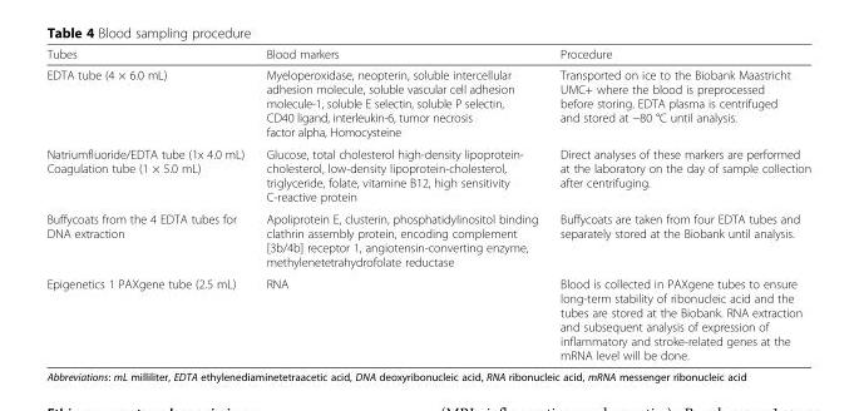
<table><thead><tr><td>Tubes</td><td>Blood markers</td><td>Procedure</td></tr></thead><tbody><tr><td>EDTA tube (4 × 6.0 mL)</td><td>Myeloperoxidase, neopterin, soluble intercellular adhesion molecule, soluble vascular cell adhesion molecule-1, soluble E selectin, soluble P selectin, CD40 ligand, interleukin-6, tumor necrosis factor alpha, Homocysteine</td><td>Transported on ice to the Biobank Maastricht UMC+ where the blood is preprocessed before storing. EDTA plasma is centrifuged and stored at −80 °C until analysis.</td></tr><tr><td>Natriumfluoride/EDTA tube (1x 4.0 mL) Coagulation tube (1 × 5.0 mL)</td><td>Glucose, total cholesterol high-density lipoprotein- cholesterol, low-density lipoprotein-cholesterol, triglyceride, folate, vitamine B12, high sensitivity C-reactive protein</td><td>Direct analyses of these markers are performed at the laboratory on the day of sample collection after centrifuging.</td></tr><tr><td>Buffycoats from the 4 EDTA tubes for DNA extraction</td><td>Apoliprotein E, clusterin, phosphatidylinositol binding clathrin assembly protein, encoding complement [3b/4b] receptor 1, angiotensin-converting enzyme, methylenetetrahydrofolate reductase</td><td>Buffycoats are taken from four EDTA tubes and separately stored at the Biobank until analysis.</td></tr><tr><td>Epigenetics 1 PAXgene tube (2.5 mL)</td><td>RNA</td><td>Blood is collected in PAXgene tubes to ensure long-term stability of ribonucleic acid and the tubes are stored at the Biobank. RNA extraction and subsequent analysis of expression of inflammatory and stroke-related genes at the mRNA level will be done.</td></tr></tbody></table>